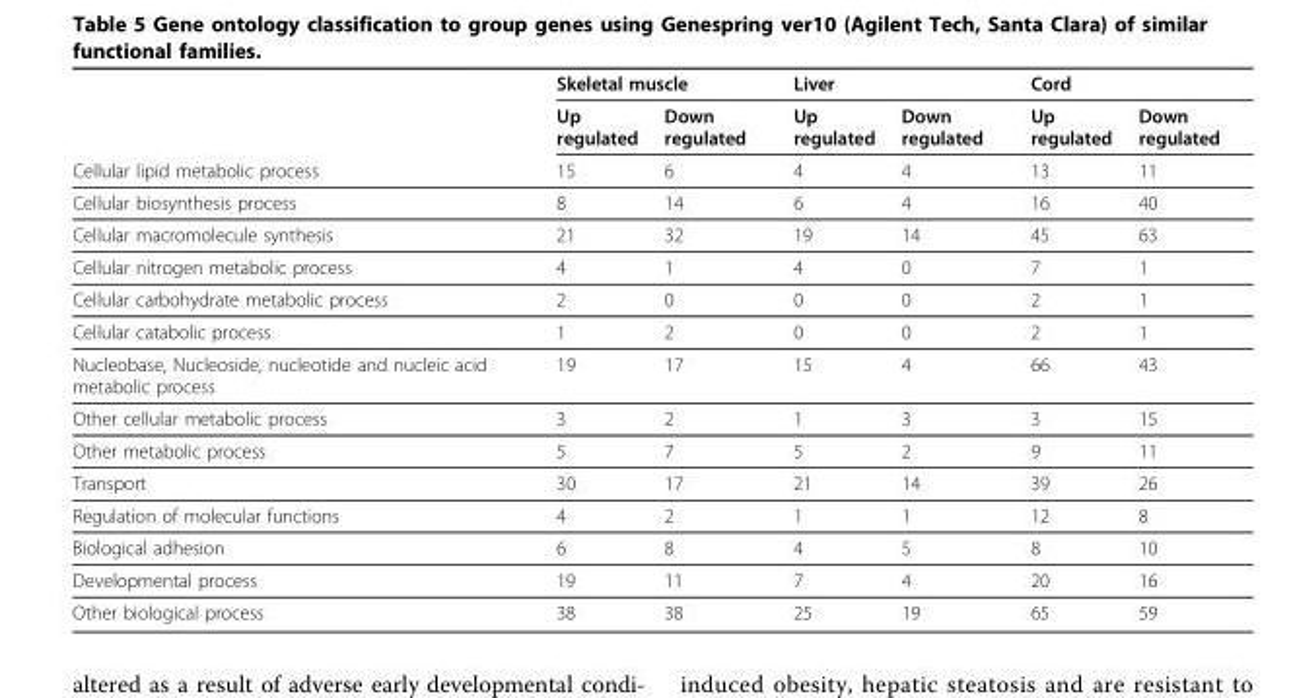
<table><thead><tr><td rowspan="3">Cellular lipid metabolic process</td><td colspan="2">Skeletal muscle</td><td colspan="2">Liver</td><td colspan="2">Cord</td></tr><tr><td rowspan="2">Up regulated 15</td><td rowspan="2">Down regulated 6</td><td rowspan="2">Up regulated 4</td><td rowspan="2">Down regulated 4</td><td rowspan="2">Up regulated 13</td><td rowspan="2">Down regulated 11</td></tr><tr></tr></thead><tbody><tr><td>Cellular biosynthesis process</td><td>8</td><td>14</td><td>6</td><td>4</td><td>16</td><td>40</td></tr><tr><td>Cellular macromolecule synthesis</td><td>21</td><td>32</td><td>19</td><td>14</td><td>45</td><td>63</td></tr><tr><td>Cellular nitrogen metabolic process</td><td>4</td><td>1</td><td>4</td><td>0</td><td>7</td><td>1</td></tr><tr><td>Cellular carbohydrate metabolic process</td><td>2</td><td>0</td><td>0</td><td>0</td><td>2</td><td>1</td></tr><tr><td>Cellular catabolic process</td><td>1</td><td>2</td><td>0</td><td>0</td><td>2</td><td>1</td></tr><tr><td>Nucleobase, Nucleoside, nucleotide and nucleic acid metabolic process</td><td>19</td><td>17</td><td>15</td><td>4</td><td>66</td><td>43</td></tr><tr><td>Other cellular metabolic process</td><td>3</td><td>2</td><td>1</td><td>3</td><td>3</td><td>15</td></tr><tr><td>Other metabolic process</td><td>5</td><td>7</td><td>5</td><td>2</td><td>9</td><td>11</td></tr><tr><td>Transport</td><td>30</td><td>17</td><td>21</td><td>14</td><td>39</td><td>26</td></tr><tr><td>Regulation of molecular functions</td><td>4</td><td>2</td><td>1</td><td>1</td><td>12</td><td>8</td></tr><tr><td>Biological adhesion</td><td>6</td><td>8</td><td>4</td><td>5</td><td>8</td><td>10</td></tr><tr><td>Developmental process</td><td>19</td><td>11</td><td>7</td><td>4</td><td>20</td><td>16</td></tr><tr><td>Other biological process</td><td>38</td><td>38</td><td>25</td><td>19</td><td>65</td><td>59</td></tr></tbody></table>